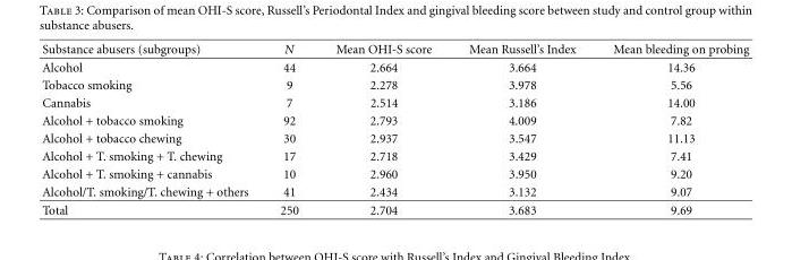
<table><thead><tr><td>Substance abusers (subgroups)</td><td>N</td><td>Mean OHI-S score</td><td>Mean Russell’s Index</td><td>Mean bleeding on probing</td></tr></thead><tbody><tr><td>Alcohol</td><td>44</td><td>2.664</td><td>3.664</td><td>14.36</td></tr><tr><td>Tobacco smoking</td><td>9</td><td>2.278</td><td>3.978</td><td>5.56</td></tr><tr><td>Cannabis</td><td>7</td><td>2.514</td><td>3.186</td><td>14.00</td></tr><tr><td>Alcohol + tobacco smoking</td><td>92</td><td>2.793</td><td>4.009</td><td>7.82</td></tr><tr><td>Alcohol + tobacco chewing</td><td>30</td><td>2.937</td><td>3.547</td><td>11.13</td></tr><tr><td>Alcohol + T. smoking + T. chewing</td><td>17</td><td>2.718</td><td>3.429</td><td>7.41</td></tr><tr><td>Alcohol + T. smoking + cannabis</td><td>10</td><td>2.960</td><td>3.950</td><td>9.20</td></tr><tr><td>Alcohol/T. smoking/T. chewing + others</td><td>41</td><td>2.434</td><td>3.132</td><td>9.07</td></tr><tr><td>Total</td><td>250</td><td>2.704</td><td>3.683</td><td>9.69</td></tr></tbody></table>